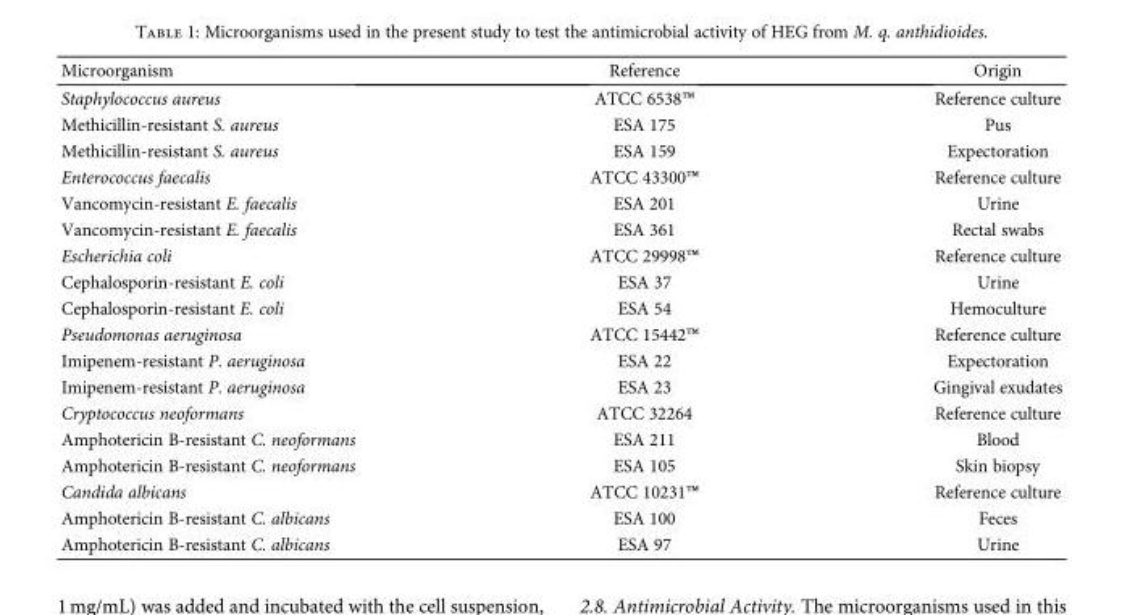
<table><thead><tr><td>Microorganism</td><td>Reference</td><td>Origin</td></tr></thead><tbody><tr><td>Staphylococcus aureus</td><td>ATCC 6538™</td><td>Reference culture</td></tr><tr><td>Methicillin-resistant S. aureus</td><td>ESA 175</td><td>Pus</td></tr><tr><td>Methicillin-resistant S. aureus</td><td>ESA 159</td><td>Expectoration</td></tr><tr><td>Enterococcus faecalis</td><td>ATCC 43300™</td><td>Reference culture</td></tr><tr><td>Vancomycin-resistant E. faecalis</td><td>ESA 201</td><td>Urine</td></tr><tr><td>Vancomycin-resistant E. faecalis</td><td>ESA 361</td><td>Rectal swabs</td></tr><tr><td>Escherichia coli</td><td>ATCC 29998™</td><td>Reference culture</td></tr><tr><td>Cephalosporin-resistant E. coli</td><td>ESA 37</td><td>Urine</td></tr><tr><td>Cephalosporin-resistant E. coli</td><td>ESA 54</td><td>Hemoculture</td></tr><tr><td>Pseudomonas aeruginosa</td><td>ATCC 15442™</td><td>Reference culture</td></tr><tr><td>Imipenem-resistant P. aeruginosa</td><td>ESA 22</td><td>Expectoration</td></tr><tr><td>Imipenem-resistant P. aeruginosa</td><td>ESA 23</td><td>Gingival exudates</td></tr><tr><td>Cryptococcus neoformans</td><td>ATCC 32264</td><td>Reference culture</td></tr><tr><td>Amphotericin B-resistant C. neoformans</td><td>ESA 211</td><td>Blood</td></tr><tr><td>Amphotericin B-resistant C. neoformans</td><td>ESA 105</td><td>Skin biopsy</td></tr><tr><td>Candida albicans</td><td>ATCC 10231™</td><td>Reference culture</td></tr><tr><td>Amphotericin B-resistant C. albicans</td><td>ESA 100</td><td>Feces</td></tr><tr><td>Amphotericin B-resistant C. albicans</td><td>ESA 97</td><td>Urine</td></tr></tbody></table>